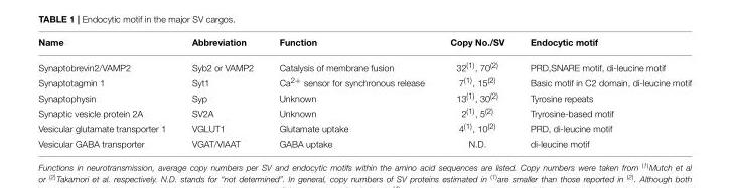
<table><thead><tr><td>Name</td><td>Abbreviation</td><td>Function</td><td>Copy No./SV</td><td>Endocytic motif</td></tr></thead><tbody><tr><td>Synaptobrevin2/VAMP2</td><td>Syb2 or VAMP2</td><td>Catalysis of membrane fusion</td><td>32<sup>(1)</sup>, 70<sup>(2)</sup></td><td>PRD,SNARE motif, di-leucine motif</td></tr><tr><td>Synaptotagmin 1</td><td>Syt1</td><td>Ca<sup>2+</sup> sensor for synchronous release</td><td>7<sup>(1)</sup>, 15<sup>(2)</sup></td><td>Basic motif in C2 domain, di-leucine motif</td></tr><tr><td>Synaptophysin</td><td>Syp</td><td>Unknown</td><td>13<sup>(1)</sup>, 30<sup>(2)</sup></td><td>Tyrosine repeats</td></tr><tr><td>Synaptic vesicle protein 2A</td><td>SV2A</td><td>Unknown</td><td>2<sup>(1)</sup>, 5<sup>(2)</sup></td><td>Tryrosine-based motif</td></tr><tr><td>Vesicular glutamate transporter 1</td><td>VGLUT1</td><td>Glutamate uptake</td><td>4<sup>(1)</sup>, 10<sup>(2)</sup></td><td>PRD, di-leucine motif</td></tr><tr><td>Vesicular GABA transporter</td><td>VGAT/VIAAT</td><td>GABA uptake</td><td>N.D.</td><td>di-leucine motif</td></tr></tbody></table>